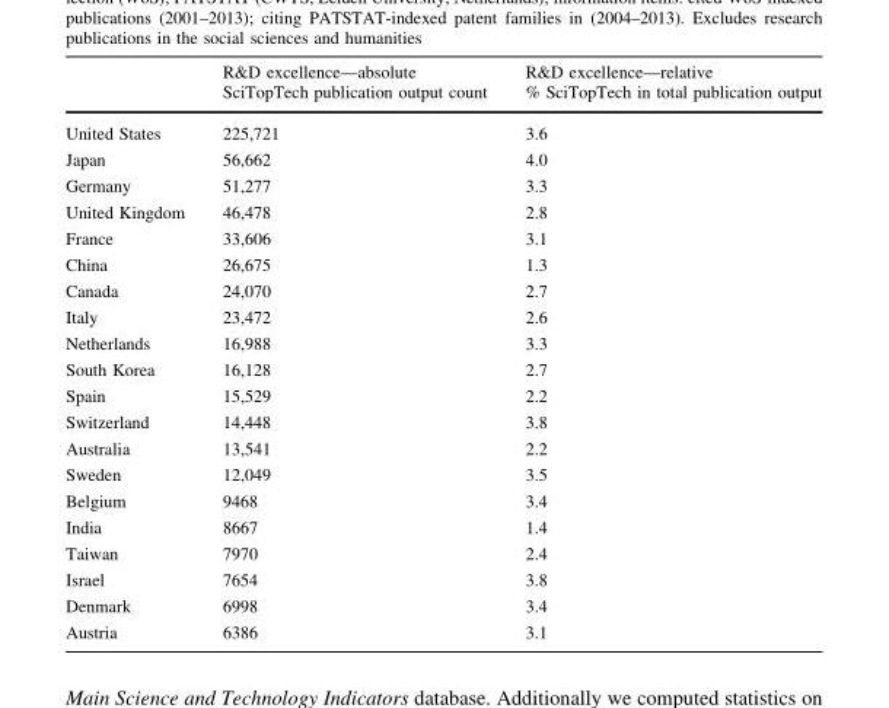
<table><thead><tr><td rowspan="2"></td><td rowspan="2">R&amp;D excellence—absolute SciTopTech publication output count</td><td rowspan="2">R&amp;D excellence—relative % SciTopTech in total publication output</td></tr><tr></tr></thead><tbody><tr><td>United States</td><td>225,721</td><td>3.6</td></tr><tr><td>Japan</td><td>56,662</td><td>4.0</td></tr><tr><td>Germany</td><td>51,277</td><td>3.3</td></tr><tr><td>United Kingdom</td><td>46,478</td><td>2.8</td></tr><tr><td>France</td><td>33,606</td><td>3.1</td></tr><tr><td>China</td><td>26,675</td><td>1.3</td></tr><tr><td>Canada</td><td>24,070</td><td>2.7</td></tr><tr><td>Italy</td><td>23,472</td><td>2.6</td></tr><tr><td>Netherlands</td><td>16,988</td><td>3.3</td></tr><tr><td>South Korea</td><td>16,128</td><td>2.7</td></tr><tr><td>Spain</td><td>15,529</td><td>2.2</td></tr><tr><td>Switzerland</td><td>14,448</td><td>3.8</td></tr><tr><td>Australia</td><td>13,541</td><td>2.2</td></tr><tr><td>Sweden</td><td>12,049</td><td>3.5</td></tr><tr><td>Belgium</td><td>9468</td><td>3.4</td></tr><tr><td>India</td><td>8667</td><td>1.4</td></tr><tr><td>Taiwan</td><td>7970</td><td>2.4</td></tr><tr><td>Israel</td><td>7654</td><td>3.8</td></tr><tr><td>Denmark</td><td>6998</td><td>3.4</td></tr><tr><td>Austria</td><td>6386</td><td>3.1</td></tr></tbody></table>